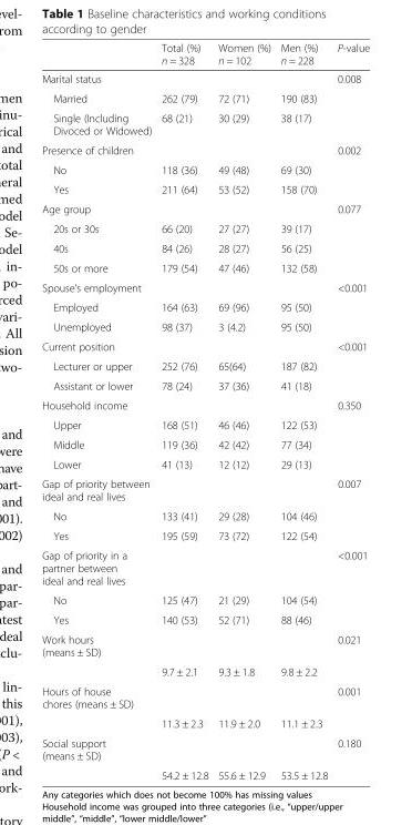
<table><thead><tr><td></td><td>Total (%) n = 328</td><td>Women (%) n = 102</td><td>Men (%) n = 228</td><td>P-value</td></tr></thead><tbody><tr><td>Marital status</td><td></td><td></td><td></td><td>0.008</td></tr><tr><td>Married</td><td>262 (79)</td><td>72 (71)</td><td>190 (83)</td><td></td></tr><tr><td>Single (Including Divoced or Widowed)</td><td>68 (21)</td><td>30 (29)</td><td>38 (17)</td><td></td></tr><tr><td>Presence of children</td><td></td><td></td><td></td><td>0.002</td></tr><tr><td>No</td><td>118 (36)</td><td>49 (48)</td><td>69 (30)</td><td></td></tr><tr><td>Yes</td><td>211 (64)</td><td>53 (52)</td><td>158 (70)</td><td></td></tr><tr><td>Age group</td><td></td><td></td><td></td><td>0.077</td></tr><tr><td>20s or 30s</td><td>66 (20)</td><td>27 (27)</td><td>39 (17)</td><td></td></tr><tr><td>40s</td><td>84 (26)</td><td>28 (27)</td><td>56 (25)</td><td></td></tr><tr><td>50s or more</td><td>179 (54)</td><td>47 (46)</td><td>132 (58)</td><td></td></tr><tr><td>Spouse’s employment</td><td></td><td></td><td></td><td>&lt;0.001</td></tr><tr><td>Employed</td><td>164 (63)</td><td>69 (96)</td><td>95 (50)</td><td></td></tr><tr><td>Unemployed</td><td>98 (37)</td><td>3 (4.2)</td><td>95 (50)</td><td></td></tr><tr><td>Current position</td><td></td><td></td><td></td><td>&lt;0.001</td></tr><tr><td>Lecturer or upper</td><td>252 (76)</td><td>65(64)</td><td>187 (82)</td><td></td></tr><tr><td>Assistant or lower</td><td>78 (24)</td><td>37 (36)</td><td>41 (18)</td><td></td></tr><tr><td>Household income</td><td></td><td></td><td></td><td>0.350</td></tr><tr><td>Upper</td><td>168 (51)</td><td>46 (46)</td><td>122 (53)</td><td></td></tr><tr><td>Middle</td><td>119 (36)</td><td>42 (42)</td><td>77 (34)</td><td></td></tr><tr><td>Lower</td><td>41 (13)</td><td>12 (12)</td><td>29 (13)</td><td></td></tr><tr><td>Gap of priority between ideal and real lives</td><td></td><td></td><td></td><td>0.007</td></tr><tr><td>No</td><td>133 (41)</td><td>29 (28)</td><td>104 (46)</td><td></td></tr><tr><td>Yes</td><td>195 (59)</td><td>73 (72)</td><td>122 (54)</td><td></td></tr><tr><td>Gap of priority in a partner between ideal and real lives</td><td></td><td></td><td></td><td>&lt;0.001</td></tr><tr><td>No</td><td>125 (47)</td><td>21 (29)</td><td>104 (54)</td><td></td></tr><tr><td>Yes</td><td>140 (53)</td><td>52 (71)</td><td>88 (46)</td><td></td></tr><tr><td rowspan="2">Work hours (means ± SD)</td><td></td><td></td><td></td><td>0.021</td></tr><tr><td>9.7 ± 2.1</td><td>9.3 ± 1.8</td><td>9.8 ± 2.2</td><td></td></tr><tr><td rowspan="2">Hours of house chores (means ± SD)</td><td></td><td></td><td></td><td>0.001</td></tr><tr><td>11.3 ± 2.3</td><td>11.9 ± 2.0</td><td>11.1 ± 2.3</td><td></td></tr><tr><td rowspan="2">Social support (means ± SD)</td><td></td><td></td><td></td><td>0.180</td></tr><tr><td>54.2 ± 12.8</td><td>55.6 ± 12.9</td><td>53.5 ± 12.8</td><td></td></tr></tbody></table>